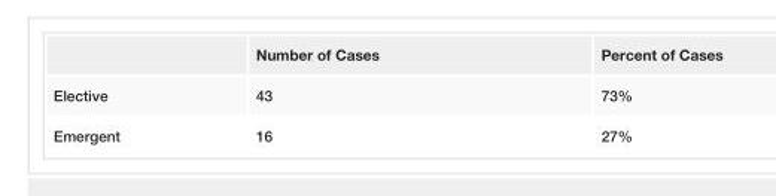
<table><thead><tr><td></td><td>Number of Cases</td><td>Percent of Cases</td></tr></thead><tbody><tr><td>Elective</td><td>43</td><td>73%</td></tr><tr><td>Emergent</td><td>16</td><td>27%</td></tr></tbody></table>